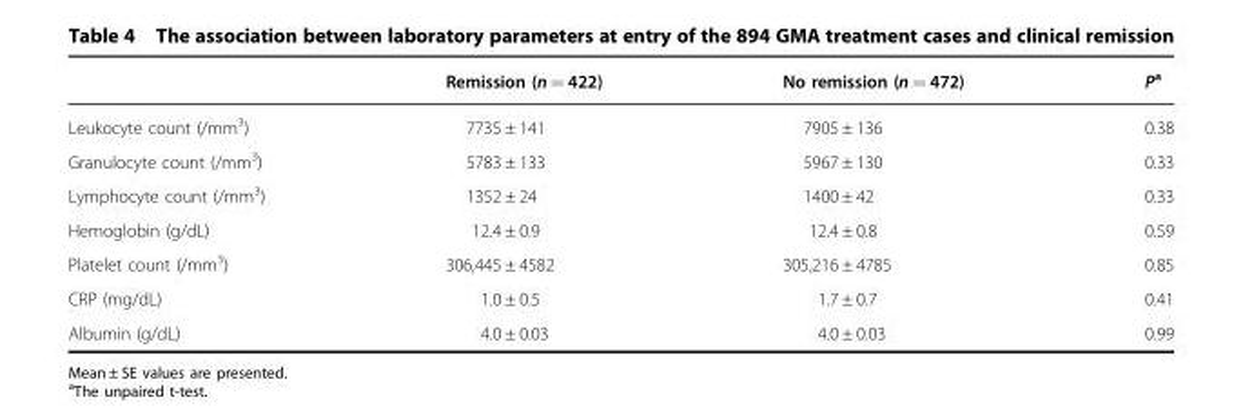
<table><thead><tr><td></td><td>Remission (n = 422)</td><td>No remission (n = 472)</td><td>P<sup>a</sup></td></tr></thead><tbody><tr><td>Leukocyte count (/mm<sup>3</sup>)</td><td>7735 ± 141</td><td>7905 ± 136</td><td>0.38</td></tr><tr><td>Granulocyte count (/mm<sup>3</sup>)</td><td>5783 ± 133</td><td>5967 ± 130</td><td>0.33</td></tr><tr><td>Lymphocyte count (/mm<sup>3</sup>)</td><td>1352 ± 24</td><td>1400 ± 42</td><td>0.33</td></tr><tr><td>Hemoglobin (g/dL)</td><td>12.4 ± 0.9</td><td>12.4 ± 0.8</td><td>0.59</td></tr><tr><td>Platelet count (/mm<sup>3</sup>)</td><td>306,445 ± 4582</td><td>305,216 ± 4785</td><td>0.85</td></tr><tr><td>CRP (mg/dL)</td><td>1.0 ± 0.5</td><td>1.7 ± 0.7</td><td>0.41</td></tr><tr><td>Albumin (g/dL)</td><td>4.0 ± 0.03</td><td>4.0 ± 0.03</td><td>0.99</td></tr></tbody></table>